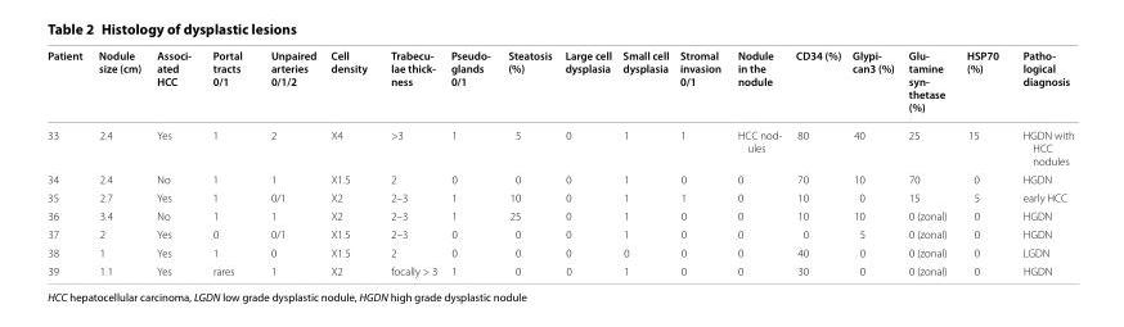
<table><thead><tr><td>Patient</td><td>Nodule size (cm)</td><td>Associ- ated HCC</td><td>Portal tracts 0/1</td><td>Unpaired arteries 0/1/2</td><td>Cell density</td><td>Trabecu- lae thick- ness</td><td>Pseudo- glands 0/1</td><td>Steatosis (%)</td><td>Large cell dysplasia</td><td>Small cell dysplasia</td><td>Stromal invasion 0/1</td><td>Nodule in the nodule</td><td>CD34 (%)</td><td>Glypi- can3 (%)</td><td>Glu- tamine syn- thetase (%)</td><td>HSP70 (%)</td><td>Patho- logical diagnosis</td></tr></thead><tbody><tr><td>33</td><td>2.4</td><td>Yes</td><td>1</td><td>2</td><td>X4</td><td>&gt;3</td><td>1</td><td>5</td><td>0</td><td>1</td><td>1</td><td>HCC nod- ules</td><td>80</td><td>40</td><td>25</td><td>15</td><td>HGDN with HCC nodules</td></tr><tr><td>34</td><td>2.4</td><td>No</td><td>1</td><td>1</td><td>X1.5</td><td>2</td><td>0</td><td>0</td><td>0</td><td>1</td><td>0</td><td>0</td><td>70</td><td>10</td><td>70</td><td>0</td><td>HGDN</td></tr><tr><td>35</td><td>2.7</td><td>Yes</td><td>1</td><td>0/1</td><td>X2</td><td>2–3</td><td>1</td><td>10</td><td>0</td><td>1</td><td>1</td><td>0</td><td>10</td><td>0</td><td>15</td><td>5</td><td>early HCC</td></tr><tr><td>36</td><td>3.4</td><td>No</td><td>1</td><td>1</td><td>X2</td><td>2–3</td><td>1</td><td>25</td><td>0</td><td>1</td><td>0</td><td>0</td><td>10</td><td>10</td><td>0 (zonal)</td><td>0</td><td>HGDN</td></tr><tr><td>37</td><td>2</td><td>Yes</td><td>0</td><td>0/1</td><td>X1.5</td><td>2–3</td><td>0</td><td>0</td><td>0</td><td>1</td><td>0</td><td>0</td><td>0</td><td>5</td><td>0 (zonal)</td><td>0</td><td>HGDN</td></tr><tr><td>38</td><td>1</td><td>Yes</td><td>1</td><td>0</td><td>X1.5</td><td>2</td><td>0</td><td>0</td><td>0</td><td>0</td><td>0</td><td>0</td><td>40</td><td>0</td><td>0 (zonal)</td><td>0</td><td>LGDN</td></tr><tr><td>39</td><td>1.1</td><td>Yes</td><td>rares</td><td>1</td><td>X2</td><td>focally &gt; 3</td><td>1</td><td>0</td><td>0</td><td>1</td><td>0</td><td>0</td><td>30</td><td>0</td><td>0 (zonal)</td><td>0</td><td>HGDN</td></tr></tbody></table>